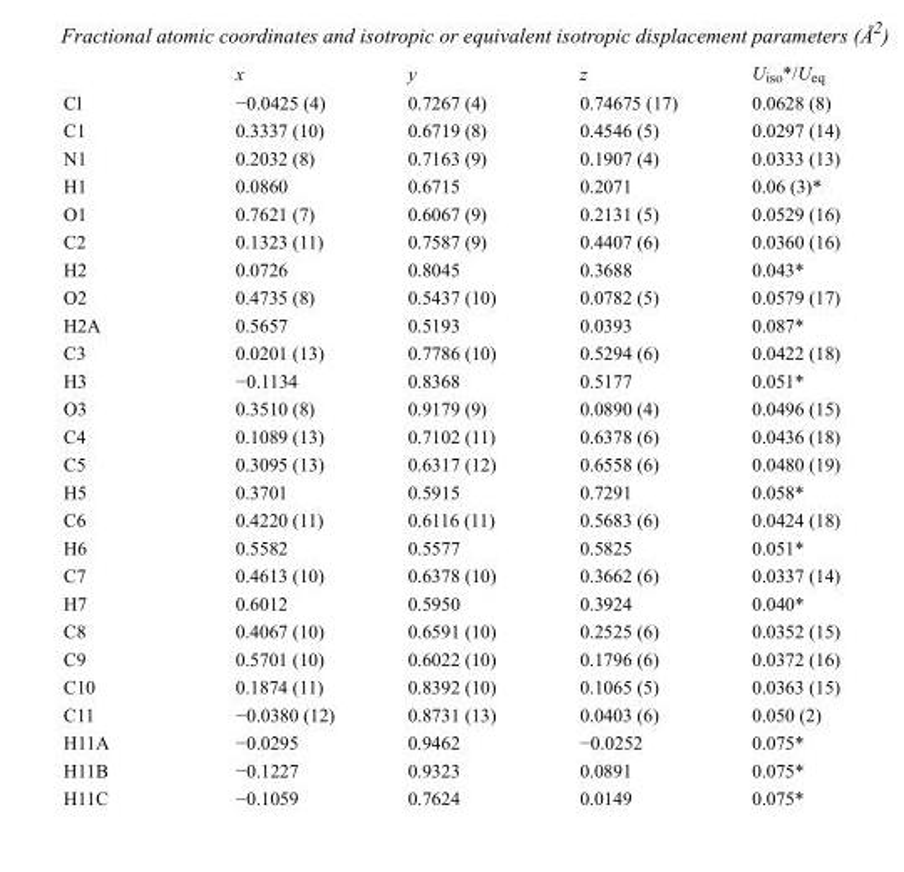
<table><thead><tr><td></td><td>x</td><td>y</td><td>z</td><td>U<sub>iso</sub>*/U<sub>eq</sub></td></tr></thead><tbody><tr><td>Cl</td><td>−0.0425 (4)</td><td>0.7267 (4)</td><td>0.74675 (17)</td><td>0.0628 (8)</td></tr><tr><td>C1</td><td>0.3337 (10)</td><td>0.6719 (8)</td><td>0.4546 (5)</td><td>0.0297 (14)</td></tr><tr><td>N1</td><td>0.2032 (8)</td><td>0.7163 (9)</td><td>0.1907 (4)</td><td>0.0333 (13)</td></tr><tr><td>H1</td><td>0.0860</td><td>0.6715</td><td>0.2071</td><td>0.06 (3)*</td></tr><tr><td>O1</td><td>0.7621 (7)</td><td>0.6067 (9)</td><td>0.2131 (5)</td><td>0.0529 (16)</td></tr><tr><td>C2</td><td>0.1323 (11)</td><td>0.7587 (9)</td><td>0.4407 (6)</td><td>0.0360 (16)</td></tr><tr><td>H2</td><td>0.0726</td><td>0.8045</td><td>0.3688</td><td>0.043*</td></tr><tr><td>O2</td><td>0.4735 (8)</td><td>0.5437 (10)</td><td>0.0782 (5)</td><td>0.0579 (17)</td></tr><tr><td>H2A</td><td>0.5657</td><td>0.5193</td><td>0.0393</td><td>0.087*</td></tr><tr><td>C3</td><td>0.0201 (13)</td><td>0.7786 (10)</td><td>0.5294 (6)</td><td>0.0422 (18)</td></tr><tr><td>H3</td><td>−0.1134</td><td>0.8368</td><td>0.5177</td><td>0.051*</td></tr><tr><td>O3</td><td>0.3510 (8)</td><td>0.9179 (9)</td><td>0.0890 (4)</td><td>0.0496 (15)</td></tr><tr><td>C4</td><td>0.1089 (13)</td><td>0.7102 (11)</td><td>0.6378 (6)</td><td>0.0436 (18)</td></tr><tr><td>C5</td><td>0.3095 (13)</td><td>0.6317 (12)</td><td>0.6558 (6)</td><td>0.0480 (19)</td></tr><tr><td>H5</td><td>0.3701</td><td>0.5915</td><td>0.7291</td><td>0.058*</td></tr><tr><td>C6</td><td>0.4220 (11)</td><td>0.6116 (11)</td><td>0.5683 (6)</td><td>0.0424 (18)</td></tr><tr><td>H6</td><td>0.5582</td><td>0.5577</td><td>0.5825</td><td>0.051*</td></tr><tr><td>C7</td><td>0.4613 (10)</td><td>0.6378 (10)</td><td>0.3662 (6)</td><td>0.0337 (14)</td></tr><tr><td>H7</td><td>0.6012</td><td>0.5950</td><td>0.3924</td><td>0.040*</td></tr><tr><td>C8</td><td>0.4067 (10)</td><td>0.6591 (10)</td><td>0.2525 (6)</td><td>0.0352 (15)</td></tr><tr><td>C9</td><td>0.5701 (10)</td><td>0.6022 (10)</td><td>0.1796 (6)</td><td>0.0372 (16)</td></tr><tr><td>C10</td><td>0.1874 (11)</td><td>0.8392 (10)</td><td>0.1065 (5)</td><td>0.0363 (15)</td></tr><tr><td>C11</td><td>−0.0380 (12)</td><td>0.8731 (13)</td><td>0.0403 (6)</td><td>0.050 (2)</td></tr><tr><td>H11A</td><td>−0.0295</td><td>0.9462</td><td>−0.0252</td><td>0.075*</td></tr><tr><td>H11B</td><td>−0.1227</td><td>0.9323</td><td>0.0891</td><td>0.075*</td></tr><tr><td>H11C</td><td>−0.1059</td><td>0.7624</td><td>0.0149</td><td>0.075*</td></tr></tbody></table>